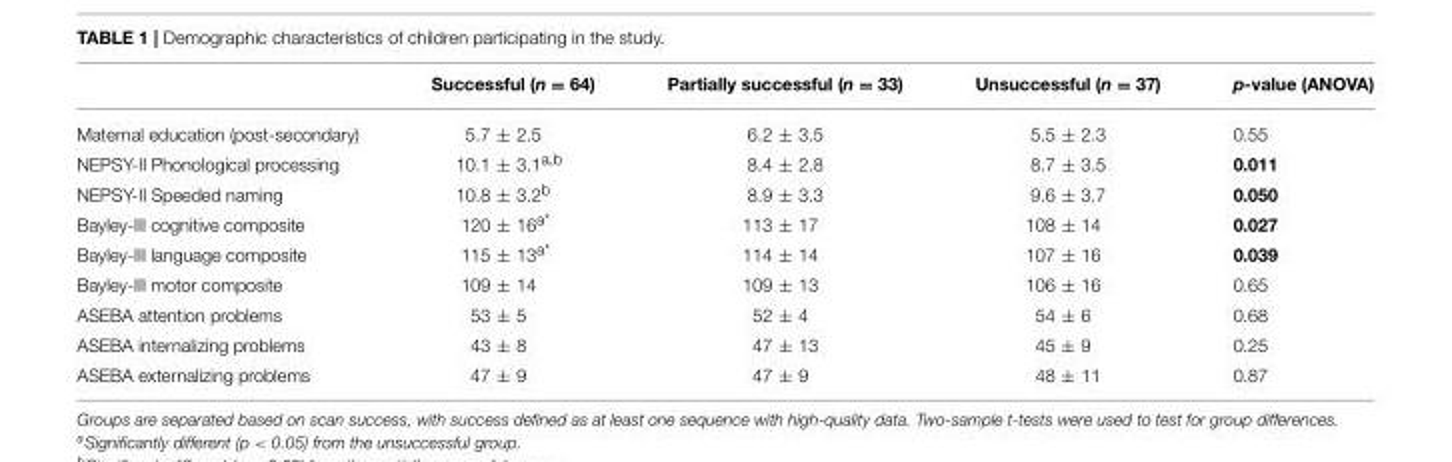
<table><thead><tr><td></td><td>Successful (n = 64)</td><td>Partially successful (n = 33)</td><td>Unsuccessful (n = 37)</td><td>p-value (ANOVA)</td></tr></thead><tbody><tr><td>Maternal education (post-secondary)</td><td>5.7 ± 2.5</td><td>6.2 ± 3.5</td><td>5.5 ± 2.3</td><td>0.55</td></tr><tr><td>NEPSY-II Phonological processing</td><td>10.1 ± 3.1<sup>a,b</sup></td><td>8.4 ± 2.8</td><td>8.7 ± 3.5</td><td>0.011</td></tr><tr><td>NEPSY-II Speeded naming</td><td>10.8 ± 3.2<sup>b</sup></td><td>8.9 ± 3.3</td><td>9.6 ± 3.7</td><td>0.050</td></tr><tr><td>Bayley-III cognitive composite</td><td>120 ± 16<sup>a*</sup></td><td>113 ± 17</td><td>108 ± 14</td><td>0.027</td></tr><tr><td>Bayley-III language composite</td><td>115 ± 13<sup>a*</sup></td><td>114 ± 14</td><td>107 ± 16</td><td>0.039</td></tr><tr><td>Bayley-III motor composite</td><td>109 ± 14</td><td>109 ± 13</td><td>106 ± 16</td><td>0.65</td></tr><tr><td>ASEBA attention problems</td><td>53 ± 5</td><td>52 ± 4</td><td>54 ± 6</td><td>0.68</td></tr><tr><td>ASEBA internalizing problems</td><td>43 ± 8</td><td>47 ± 13</td><td>45 ± 9</td><td>0.25</td></tr><tr><td>ASEBA externalizing problems</td><td>47 ± 9</td><td>47 ± 9</td><td>48 ± 11</td><td>0.87</td></tr></tbody></table>